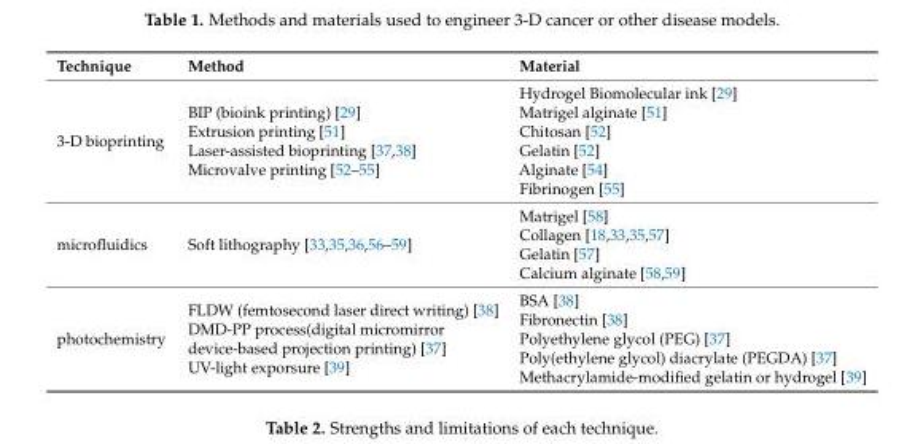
<table><thead><tr><td>Technique</td><td>Method</td><td>Material</td></tr></thead><tbody><tr><td>3-D bioprinting</td><td>BIP (bioink printing) [29] Extrusion printing [51] Laser-assisted bioprinting [37,38] Microvalve printing [52–55]</td><td>Hydrogel Biomolecular ink [29] Matrigel alginate [51] Chitosan [52] Gelatin [52] Alginate [54] Fibrinogen [55]</td></tr><tr><td>microfluidics</td><td>Soft lithography [33,35,36,56–59]</td><td>Matrigel [58] Collagen [18,33,35,57] Gelatin [57] Calcium alginate [58,59]</td></tr><tr><td>photochemistry</td><td>FLDW (femtosecond laser direct writing) [38] DMD-PP process(digital micromirror device-based projection printing) [37] UV-light exporsure [39]</td><td>BSA [38] Fibronectin [38] Polyethylene glycol (PEG) [37] Poly(ethylene glycol) diacrylate (PEGDA) [37] Methacrylamide-modified gelatin or hydrogel [39]</td></tr></tbody></table>